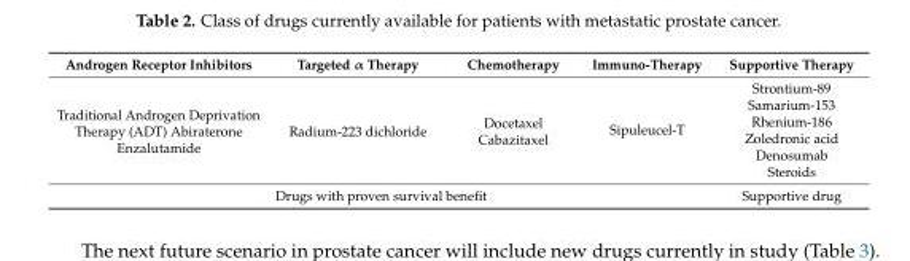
<table><thead><tr><td>Androgen Receptor Inhibitors</td><td>Targeted α Therapy</td><td>Chemotherapy</td><td>Immuno-Therapy</td><td>Supportive Therapy</td></tr></thead><tbody><tr><td rowspan="6">Traditional Androgen Deprivation Therapy (ADT) Abiraterone Enzalutamide</td><td rowspan="6">Radium-223 dichloride</td><td rowspan="6">Docetaxel Cabazitaxel</td><td rowspan="6">Sipuleucel-T</td><td>Strontium-89</td></tr><tr><td>Samarium-153</td></tr><tr><td>Rhenium-186</td></tr><tr><td>Zoledronic acid</td></tr><tr><td>Denosumab</td></tr><tr><td>Steroids</td></tr><tr><td colspan="4">Drugs with proven survival benefit</td><td>Supportive drug</td></tr></tbody></table>